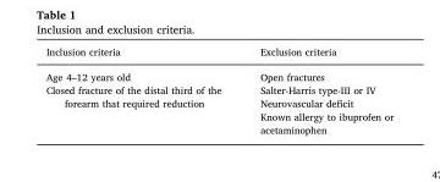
<table><thead><tr><td>Inclusion criteria</td><td>Exclusion criteria</td></tr></thead><tbody><tr><td>Age 4–12 years old</td><td>Open fractures</td></tr><tr><td rowspan="3">Closed fracture of the distal third of the forearm that required reduction</td><td>Salter-Harris type-III or IV</td></tr><tr><td>Neurovascular deficit</td></tr><tr><td>Known allergy to ibuprofen or acetaminophen</td></tr></tbody></table>